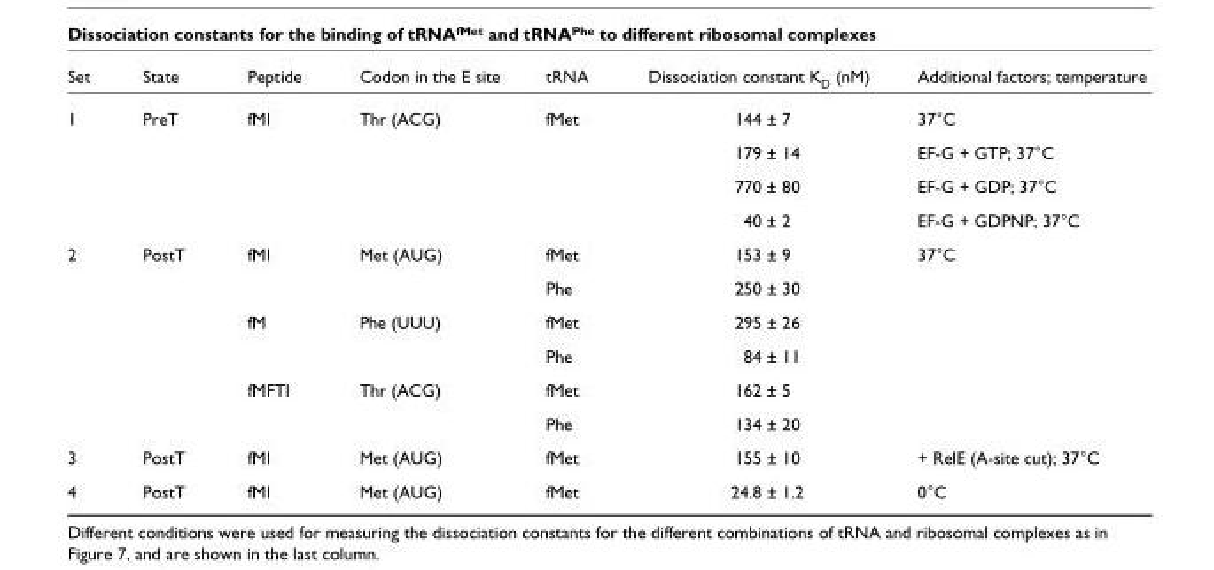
<table><thead><tr><td>Set</td><td>State</td><td>Peptide</td><td>Codon in the E site</td><td>tRNA</td><td>Dissociation constant KD (nM)</td><td>Additional factors; temperature</td></tr></thead><tbody><tr><td rowspan="4">1</td><td>PreT</td><td>fMI</td><td>Thr (ACG)</td><td>fMet</td><td>144 ± 7</td><td>37°C</td></tr><tr><td></td><td></td><td></td><td></td><td>179 ± 14</td><td>EF-G + GTP; 37°C</td></tr><tr><td></td><td></td><td></td><td></td><td>770 ± 80</td><td>EF-G + GDP; 37°C</td></tr><tr><td></td><td></td><td></td><td></td><td>40 ± 2</td><td>EF-G + GDPNP; 37°C</td></tr><tr><td rowspan="6">2</td><td>PostT</td><td>fMI</td><td>Met (AUG)</td><td>fMet</td><td>153 ± 9</td><td>37°C</td></tr><tr><td></td><td></td><td></td><td>Phe</td><td>250 ± 30</td><td></td></tr><tr><td></td><td>fM</td><td>Phe (UUU)</td><td>fMet</td><td>295 ± 26</td><td></td></tr><tr><td></td><td></td><td></td><td>Phe</td><td>84 ± 11</td><td></td></tr><tr><td></td><td>fMFTI</td><td>Thr (ACG)</td><td>fMet</td><td>162 ± 5</td><td></td></tr><tr><td></td><td></td><td></td><td>Phe</td><td>134 ± 20</td><td></td></tr><tr><td>3</td><td>PostT</td><td>fMI</td><td>Met (AUG)</td><td>fMet</td><td>155 ± 10</td><td>+ RelE (A-site cut); 37°C</td></tr><tr><td>4</td><td>PostT</td><td>fMI</td><td>Met (AUG)</td><td>fMet</td><td>24.8 ± 1.2</td><td>0°C</td></tr></tbody></table>